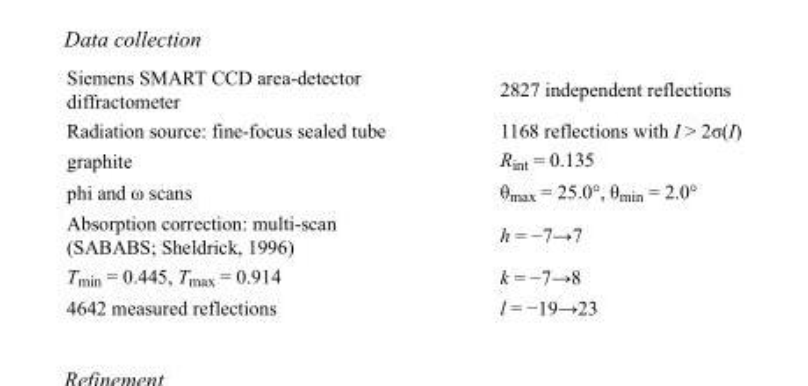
<table><tbody><tr><td>Siemens SMART CCD area-detector diffractometer</td><td>2827 independent reflections</td></tr><tr><td>Radiation source: fine-focus sealed tube</td><td>1168 reflections with I &gt; 2σ(I)</td></tr><tr><td>graphite</td><td>R<sub>int</sub> = 0.135</td></tr><tr><td>phi and ω scans</td><td>θ<sub>max</sub> = 25.0°, θ<sub>min</sub> = 2.0°</td></tr><tr><td>Absorption correction: multi-scan (SABABS; Sheldrick, 1996)</td><td>h = −7→7</td></tr><tr><td>T<sub>min</sub> = 0.445, T<sub>max</sub> = 0.914</td><td>k = −7→8</td></tr><tr><td>4642 measured reflections</td><td>l = −19→23</td></tr></tbody></table>